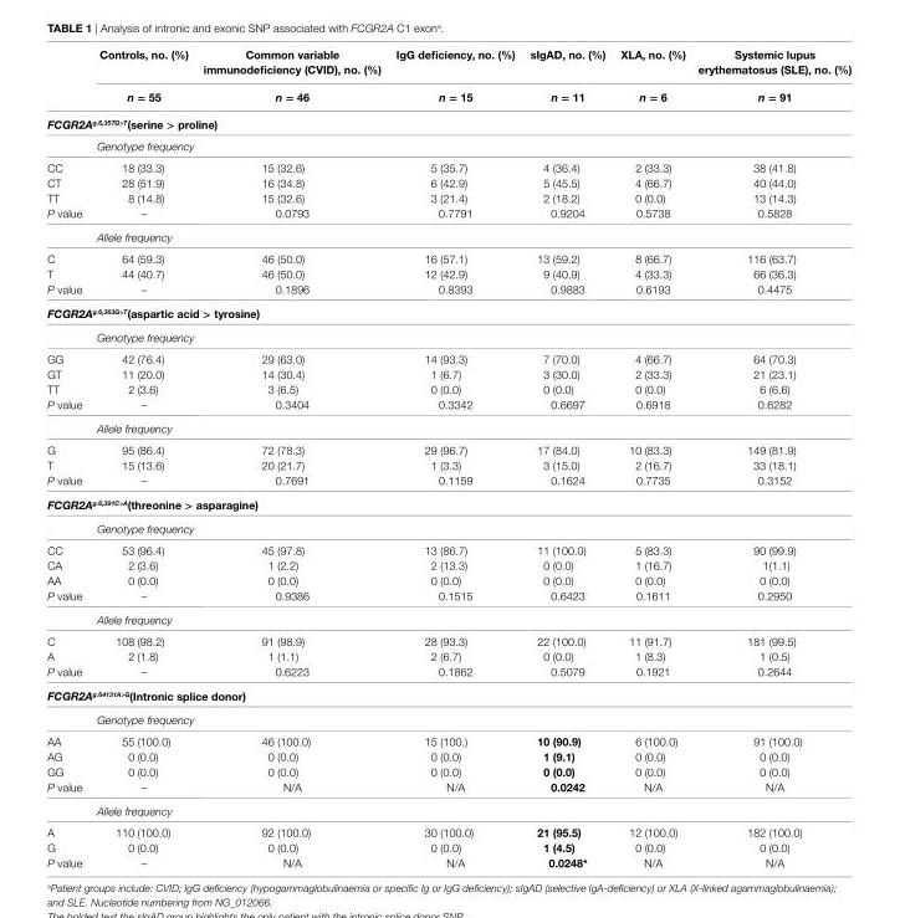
<table><thead><tr><td rowspan="2"></td><td rowspan="2">controls, no. (%) n = 55</td><td rowspan="2">common variable immunodeficiency (cViD), no. (%) n = 46</td><td rowspan="2">igg deficiency, no. (%) n = 15</td><td rowspan="2">sigaD, no. (%) n = 11</td><td rowspan="2">Xla, no. (%) n = 6</td><td rowspan="2">systemic lupus erythematosus (sle), no. (%) n = 91</td></tr><tr></tr></thead><tbody><tr><td colspan="7">FCGR2Ag.6,357G&gt;T(serine &gt; proline)</td></tr><tr><td></td><td colspan="2">Genotype frequency</td><td></td><td></td><td></td><td></td></tr><tr><td>CC</td><td>18 (33.3)</td><td>15 (32.6)</td><td>5 (35.7)</td><td>4 (36.4)</td><td>2 (33.3)</td><td>38 (41.8)</td></tr><tr><td>CT</td><td>28 (51.9)</td><td>16 (34.8)</td><td>6 (42.9)</td><td>5 (45.5)</td><td>4 (66.7)</td><td>40 (44.0)</td></tr><tr><td>TT</td><td>8 (14.8)</td><td>15 (32.6)</td><td>3 (21.4)</td><td>2 (18.2)</td><td>0 (0.0)</td><td>13 (14.3)</td></tr><tr><td rowspan="2">P value</td><td>–</td><td>0.0793</td><td>0.7791</td><td>0.9204</td><td>0.5738</td><td>0.5828</td></tr><tr><td colspan="2">Allele frequency</td><td></td><td></td><td></td><td></td></tr><tr><td>C</td><td>64 (59.3)</td><td>46 (50.0)</td><td>16 (57.1)</td><td>13 (59.2)</td><td>8 (66.7)</td><td>116 (63.7)</td></tr><tr><td>T</td><td>44 (40.7)</td><td>46 (50.0)</td><td>12 (42.9)</td><td>9 (40.9)</td><td>4 (33.3)</td><td>66 (36.3)</td></tr><tr><td>P value</td><td>–</td><td>0.1896</td><td>0.8393</td><td>0.9883</td><td>0.6193</td><td>0.4475</td></tr><tr><td colspan="7">FCGR2Ag.6,363G&gt;T(aspartic acid &gt; tyrosine)</td></tr><tr><td></td><td colspan="2">Genotype frequency</td><td></td><td></td><td></td><td></td></tr><tr><td>GG</td><td>42 (76.4)</td><td>29 (63.0)</td><td>14 (93.3)</td><td>7 (70.0)</td><td>4 (66.7)</td><td>64 (70.3)</td></tr><tr><td>GT</td><td>11 (20.0)</td><td>14 (30.4)</td><td>1 (6.7)</td><td>3 (30.0)</td><td>2 (33.3)</td><td>21 (23.1)</td></tr><tr><td>TT</td><td>2 (3.6)</td><td>3 (6.5)</td><td>0 (0.0)</td><td>0 (0.0)</td><td>0 (0.0)</td><td>6 (6.6)</td></tr><tr><td rowspan="2">P value</td><td>–</td><td>0.3404</td><td>0.3342</td><td>0.6697</td><td>0.6918</td><td>0.6282</td></tr><tr><td colspan="2">Allele frequency</td><td></td><td></td><td></td><td></td></tr><tr><td>G</td><td>95 (86.4)</td><td>72 (78.3)</td><td>29 (96.7)</td><td>17 (84.0)</td><td>10 (83.3)</td><td>149 (81.9)</td></tr><tr><td>T</td><td>15 (13.6)</td><td>20 (21.7)</td><td>1 (3.3)</td><td>3 (15.0)</td><td>2 (16.7)</td><td>33 (18.1)</td></tr><tr><td>P value</td><td>–</td><td>0.7691</td><td>0.1159</td><td>0.1624</td><td>0.7735</td><td>0.3152</td></tr><tr><td colspan="7">FCGR2Ag.6,391C&gt;A(threonine &gt; asparagine)</td></tr><tr><td></td><td colspan="2">Genotype frequency</td><td></td><td></td><td></td><td></td></tr><tr><td>CC</td><td>53 (96.4)</td><td>45 (97.8)</td><td>13 (86.7)</td><td>11 (100.0)</td><td>5 (83.3)</td><td>90 (99.9)</td></tr><tr><td>CA</td><td>2 (3.6)</td><td>1 (2.2)</td><td>2 (13.3)</td><td>0 (0.0)</td><td>1 (16.7)</td><td>1(1.1)</td></tr><tr><td>AA</td><td>0 (0.0)</td><td>0 (0.0)</td><td>0 (0.0)</td><td>0 (0.0)</td><td>0 (0.0)</td><td>0 (0.0)</td></tr><tr><td rowspan="2">P value</td><td>–</td><td>0.9386</td><td>0.1515</td><td>0.6423</td><td>0.1611</td><td>0.2950</td></tr><tr><td colspan="2">Allele frequency</td><td></td><td></td><td></td><td></td></tr><tr><td>C</td><td>108 (98.2)</td><td>91 (98.9)</td><td>28 (93.3)</td><td>22 (100.0)</td><td>11 (91.7)</td><td>181 (99.5)</td></tr><tr><td>A</td><td>2 (1.8)</td><td>1 (1.1)</td><td>2 (6.7)</td><td>0 (0.0)</td><td>1 (8.3)</td><td>1 (0.5)</td></tr><tr><td>P value</td><td>–</td><td>0.6223</td><td>0.1862</td><td>0.5079</td><td>0.1921</td><td>0.2644</td></tr><tr><td colspan="7">FCGR2Ag.64131A&gt;G(intronic splice donor)</td></tr><tr><td></td><td colspan="2">Genotype frequency</td><td></td><td></td><td></td><td></td></tr><tr><td>AA</td><td>55 (100.0)</td><td>46 (100.0)</td><td>15 (100.)</td><td>10 (90.9)</td><td>6 (100.0)</td><td>91 (100.0)</td></tr><tr><td>AG</td><td>0 (0.0)</td><td>0 (0.0)</td><td>0 (0.0)</td><td>1 (9.1)</td><td>0 (0.0)</td><td>0 (0.0)</td></tr><tr><td>GG</td><td>0 (0.0)</td><td>0 (0.0)</td><td>0 (0.0)</td><td>0 (0.0)</td><td>0 (0.0)</td><td>0 (0.0)</td></tr><tr><td rowspan="2">P value</td><td>–</td><td>N/A</td><td>N/A</td><td>0.0242</td><td>N/A</td><td>N/A</td></tr><tr><td colspan="2">Allele frequency</td><td></td><td></td><td></td><td></td></tr><tr><td>A</td><td>110 (100.0)</td><td>92 (100.0)</td><td>30 (100.0)</td><td>21 (95.5)</td><td>12 (100.0)</td><td>182 (100.0)</td></tr><tr><td>G</td><td>0 (0.0)</td><td>0 (0.0)</td><td>0 (0.0)</td><td>1 (4.5)</td><td>0 (0.0)</td><td>0 (0.0)</td></tr><tr><td>P value</td><td>–</td><td>N/A</td><td>N/A</td><td>0.0248*</td><td>N/A</td><td>N/A</td></tr></tbody></table>